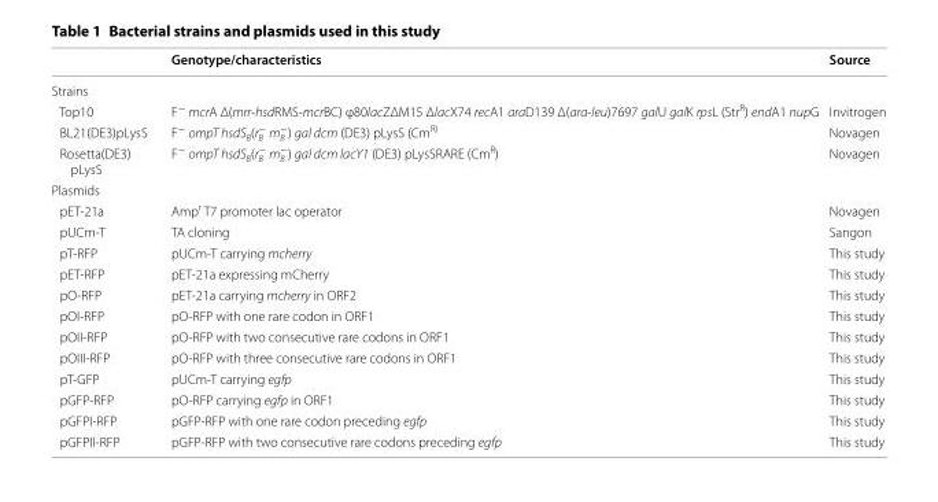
<table><thead><tr><td></td><td>Genotype/characteristics</td><td>Source</td></tr></thead><tbody><tr><td colspan="3">Strains</td></tr><tr><td>Top10</td><td>F<sup>−</sup> mcrA Δ(mrr‑hsdRMS‑mcrBC) φ80lacZΔM15 ΔlacX74 recA1 araD139 Δ(ara‑leu)7697 galU galK rpsL (Str<sup>R</sup>) endA1 nupG</td><td>Invitrogen</td></tr><tr><td>BL21(DE3)pLysS</td><td>F<sup>−</sup> ompT hsdS<sub>B</sub>(r<sub>B</sub> <sup>−</sup> m<sub>B</sub> <sup>−</sup>) gal dcm (DE3) pLysS (Cm<sup>R)</sup></td><td>Novagen</td></tr><tr><td>Rosetta(DE3) pLysS</td><td>F<sup>−</sup> ompT hsdS<sub>B</sub>(r<sub>B</sub> <sup>−</sup> m<sub>B</sub> <sup>−</sup>) gal dcm lacY1 (DE3) pLysSRARE (Cm<sup>R</sup>)</td><td>Novagen</td></tr><tr><td colspan="3">Plasmids</td></tr><tr><td>pET‑21a</td><td>Amp<sup>r</sup> T7 promoter lac operator</td><td>Novagen</td></tr><tr><td>pUCm‑T</td><td>TA cloning</td><td>Sangon</td></tr><tr><td>pT‑RFP</td><td>pUCm‑T carrying mcherry</td><td>This study</td></tr><tr><td>pET‑RFP</td><td>pET‑21a expressing mCherry</td><td>This study</td></tr><tr><td>pO‑RFP</td><td>pET‑21a carrying mcherry in ORF2</td><td>This study</td></tr><tr><td>pOI‑RFP</td><td>pO‑RFP with one rare codon in ORF1</td><td>This study</td></tr><tr><td>pOII‑RFP</td><td>pO‑RFP with two consecutive rare codons in ORF1</td><td>This study</td></tr><tr><td>pOIII‑RFP</td><td>pO‑RFP with three consecutive rare codons in ORF1</td><td>This study</td></tr><tr><td>pT‑GFP</td><td>pUCm‑T carrying egfp</td><td>This study</td></tr><tr><td>pGFP‑RFP</td><td>pO‑RFP carrying egfp in ORF1</td><td>This study</td></tr><tr><td>pGFPI‑RFP</td><td>pGFP‑RFP with one rare codon preceding egfp</td><td>This study</td></tr><tr><td>pGFPII‑RFP</td><td>pGFP‑RFP with two consecutive rare codons preceding egfp</td><td>This study</td></tr></tbody></table>